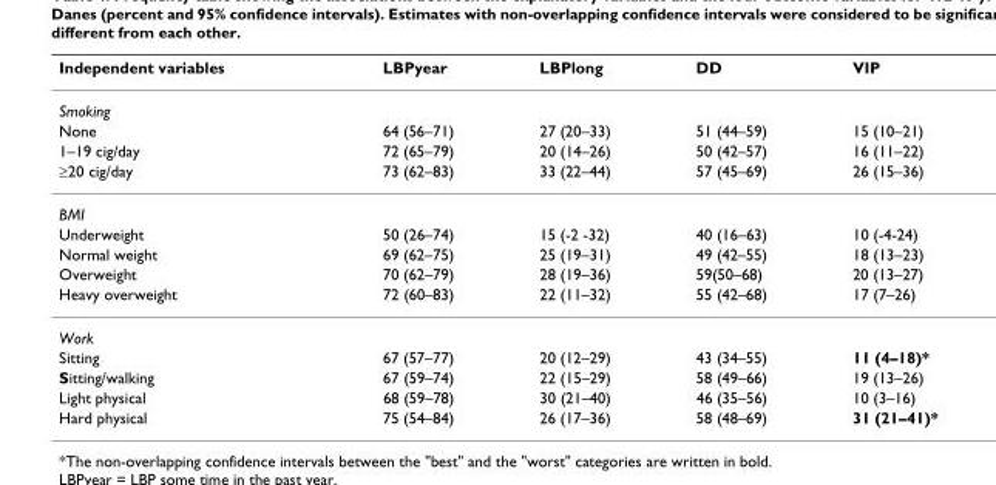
<table><thead><tr><td>Independent variables</td><td>LBPyear</td><td>LBPlong</td><td>DD</td><td>VIP</td></tr></thead><tbody><tr><td colspan="5">Smoking</td></tr><tr><td>None</td><td>64 (56–71)</td><td>27 (20–33)</td><td>51 (44–59)</td><td>15 (10–21)</td></tr><tr><td>1–19 cig/day</td><td>72 (65–79)</td><td>20 (14–26)</td><td>50 (42–57)</td><td>16 (11–22)</td></tr><tr><td>≥20 cig/day</td><td>73 (62–83)</td><td>33 (22–44)</td><td>57 (45–69)</td><td>26 (15–36)</td></tr><tr><td colspan="5">BMI</td></tr><tr><td>Underweight</td><td>50 (26–74)</td><td>15 (-2 -32)</td><td>40 (16–63)</td><td>10 (-4-24)</td></tr><tr><td>Normal weight</td><td>69 (62–75)</td><td>25 (19–31)</td><td>49 (42–55)</td><td>18 (13–23)</td></tr><tr><td>Overweight</td><td>70 (62–79)</td><td>28 (19–36)</td><td>59(50–68)</td><td>20 (13–27)</td></tr><tr><td>Heavy overweight</td><td>72 (60–83)</td><td>22 (11–32)</td><td>55 (42–68)</td><td>17 (7–26)</td></tr><tr><td colspan="5">Work</td></tr><tr><td>Sitting</td><td>67 (57–77)</td><td>20 (12–29)</td><td>43 (34–55)</td><td>11 (4–18)*</td></tr><tr><td>Sitting/walking</td><td>67 (59–74)</td><td>22 (15–29)</td><td>58 (49–66)</td><td>19 (13–26)</td></tr><tr><td>Light physical</td><td>68 (59–78)</td><td>30 (21–40)</td><td>46 (35–56)</td><td>10 (3–16)</td></tr><tr><td>Hard physical</td><td>75 (54–84)</td><td>26 (17–36)</td><td>58 (48–69)</td><td>31 (21–41)*</td></tr></tbody></table>